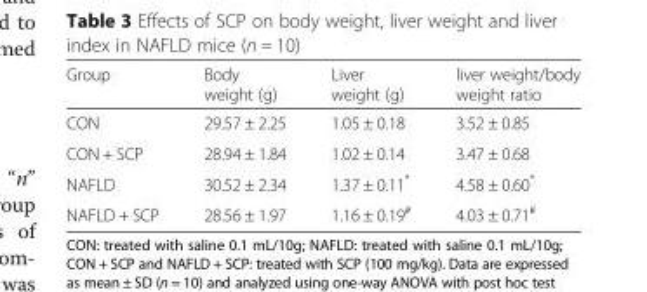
<table><thead><tr><td>Group</td><td>Body weight (g)</td><td>Liver weight (g)</td><td>liver weight/body weight ratio</td></tr></thead><tbody><tr><td>CON</td><td>29.57 ± 2.25</td><td>1.05 ± 0.18</td><td>3.52 ± 0.85</td></tr><tr><td>CON + SCP</td><td>28.94 ± 1.84</td><td>1.02 ± 0.14</td><td>3.47 ± 0.68</td></tr><tr><td>NAFLD</td><td>30.52 ± 2.34</td><td>1.37 ± 0.11*</td><td>4.58 ± 0.60*</td></tr><tr><td>NAFLD + SCP</td><td>28.56 ± 1.97</td><td>1.16 ± 0.19<sup>#</sup></td><td>4.03 ± 0.71<sup>#</sup></td></tr></tbody></table>